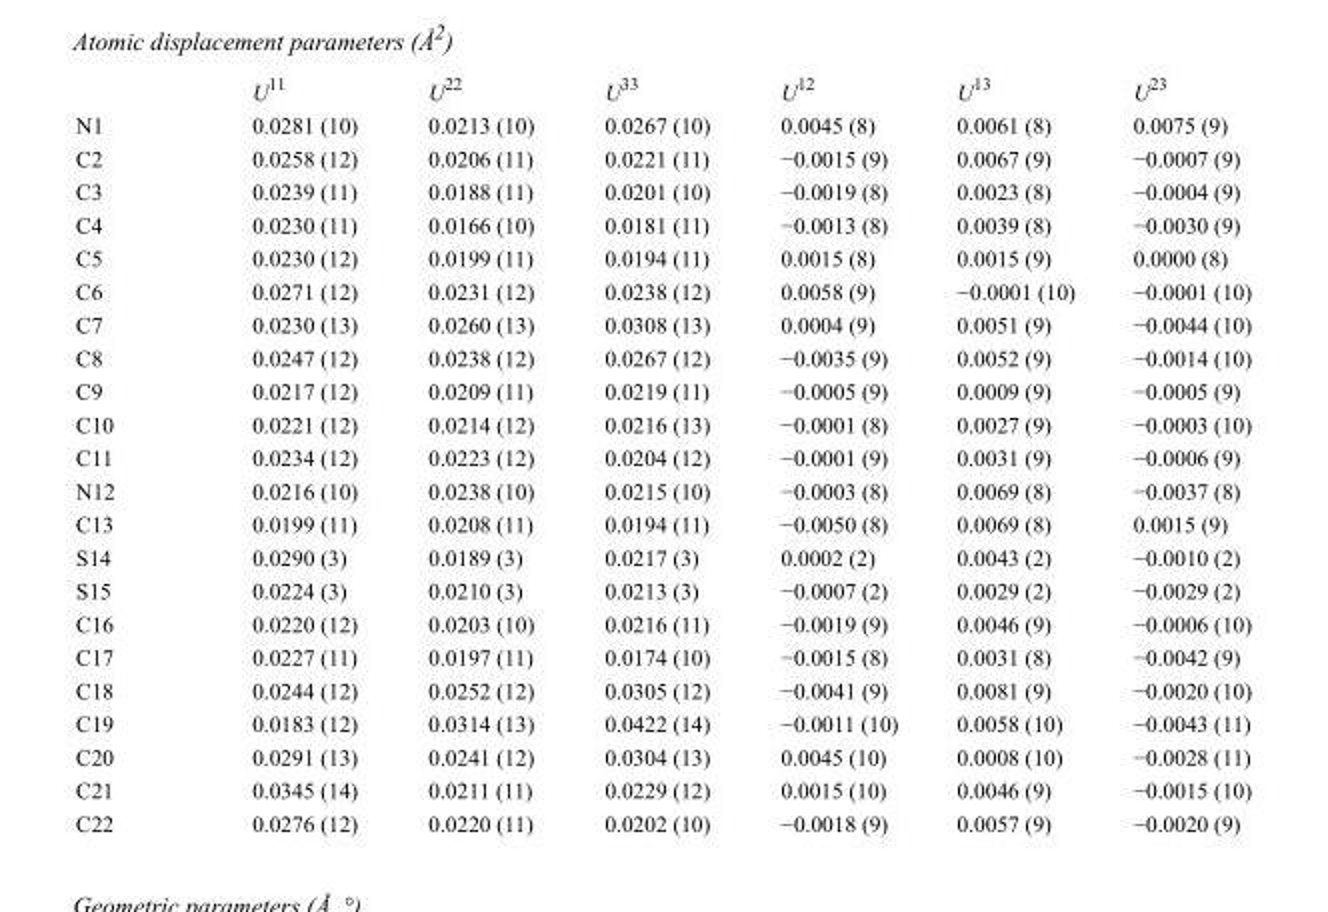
<table><thead><tr><td></td><td>U<sup>11</sup></td><td>U<sup>22</sup></td><td>U<sup>33</sup></td><td>U<sup>12</sup></td><td>U<sup>13</sup></td><td>U<sup>23</sup></td></tr></thead><tbody><tr><td>N1</td><td>0.0281 (10)</td><td>0.0213 (10)</td><td>0.0267 (10)</td><td>0.0045 (8)</td><td>0.0061 (8)</td><td>0.0075 (9)</td></tr><tr><td>C2</td><td>0.0258 (12)</td><td>0.0206 (11)</td><td>0.0221 (11)</td><td>−0.0015 (9)</td><td>0.0067 (9)</td><td>−0.0007 (9)</td></tr><tr><td>C3</td><td>0.0239 (11)</td><td>0.0188 (11)</td><td>0.0201 (10)</td><td>−0.0019 (8)</td><td>0.0023 (8)</td><td>−0.0004 (9)</td></tr><tr><td>C4</td><td>0.0230 (11)</td><td>0.0166 (10)</td><td>0.0181 (11)</td><td>−0.0013 (8)</td><td>0.0039 (8)</td><td>−0.0030 (9)</td></tr><tr><td>C5</td><td>0.0230 (12)</td><td>0.0199 (11)</td><td>0.0194 (11)</td><td>0.0015 (8)</td><td>0.0015 (9)</td><td>0.0000 (8)</td></tr><tr><td>C6</td><td>0.0271 (12)</td><td>0.0231 (12)</td><td>0.0238 (12)</td><td>0.0058 (9)</td><td>−0.0001 (10)</td><td>−0.0001 (10)</td></tr><tr><td>C7</td><td>0.0230 (13)</td><td>0.0260 (13)</td><td>0.0308 (13)</td><td>0.0004 (9)</td><td>0.0051 (9)</td><td>−0.0044 (10)</td></tr><tr><td>C8</td><td>0.0247 (12)</td><td>0.0238 (12)</td><td>0.0267 (12)</td><td>−0.0035 (9)</td><td>0.0052 (9)</td><td>−0.0014 (10)</td></tr><tr><td>C9</td><td>0.0217 (12)</td><td>0.0209 (11)</td><td>0.0219 (11)</td><td>−0.0005 (9)</td><td>0.0009 (9)</td><td>−0.0005 (9)</td></tr><tr><td>C10</td><td>0.0221 (12)</td><td>0.0214 (12)</td><td>0.0216 (13)</td><td>−0.0001 (8)</td><td>0.0027 (9)</td><td>−0.0003 (10)</td></tr><tr><td>C11</td><td>0.0234 (12)</td><td>0.0223 (12)</td><td>0.0204 (12)</td><td>−0.0001 (9)</td><td>0.0031 (9)</td><td>−0.0006 (9)</td></tr><tr><td>N12</td><td>0.0216 (10)</td><td>0.0238 (10)</td><td>0.0215 (10)</td><td>−0.0003 (8)</td><td>0.0069 (8)</td><td>−0.0037 (8)</td></tr><tr><td>C13</td><td>0.0199 (11)</td><td>0.0208 (11)</td><td>0.0194 (11)</td><td>−0.0050 (8)</td><td>0.0069 (8)</td><td>0.0015 (9)</td></tr><tr><td>S14</td><td>0.0290 (3)</td><td>0.0189 (3)</td><td>0.0217 (3)</td><td>0.0002 (2)</td><td>0.0043 (2)</td><td>−0.0010 (2)</td></tr><tr><td>S15</td><td>0.0224 (3)</td><td>0.0210 (3)</td><td>0.0213 (3)</td><td>−0.0007 (2)</td><td>0.0029 (2)</td><td>−0.0029 (2)</td></tr><tr><td>C16</td><td>0.0220 (12)</td><td>0.0203 (10)</td><td>0.0216 (11)</td><td>−0.0019 (9)</td><td>0.0046 (9)</td><td>−0.0006 (10)</td></tr><tr><td>C17</td><td>0.0227 (11)</td><td>0.0197 (11)</td><td>0.0174 (10)</td><td>−0.0015 (8)</td><td>0.0031 (8)</td><td>−0.0042 (9)</td></tr><tr><td>C18</td><td>0.0244 (12)</td><td>0.0252 (12)</td><td>0.0305 (12)</td><td>−0.0041 (9)</td><td>0.0081 (9)</td><td>−0.0020 (10)</td></tr><tr><td>C19</td><td>0.0183 (12)</td><td>0.0314 (13)</td><td>0.0422 (14)</td><td>−0.0011 (10)</td><td>0.0058 (10)</td><td>−0.0043 (11)</td></tr><tr><td>C20</td><td>0.0291 (13)</td><td>0.0241 (12)</td><td>0.0304 (13)</td><td>0.0045 (10)</td><td>0.0008 (10)</td><td>−0.0028 (11)</td></tr><tr><td>C21</td><td>0.0345 (14)</td><td>0.0211 (11)</td><td>0.0229 (12)</td><td>0.0015 (10)</td><td>0.0046 (9)</td><td>−0.0015 (10)</td></tr><tr><td>C22</td><td>0.0276 (12)</td><td>0.0220 (11)</td><td>0.0202 (10)</td><td>−0.0018 (9)</td><td>0.0057 (9)</td><td>−0.0020 (9)</td></tr></tbody></table>